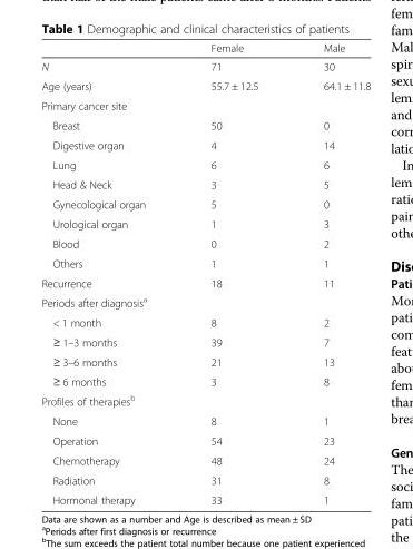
<table><thead><tr><td></td><td>Female</td><td>Male</td></tr></thead><tbody><tr><td>N</td><td>71</td><td>30</td></tr><tr><td>Age (years)</td><td>55.7 ± 12.5</td><td>64.1 ± 11.8</td></tr><tr><td colspan="3">Primary cancer site</td></tr><tr><td>Breast</td><td>50</td><td>0</td></tr><tr><td>Digestive organ</td><td>4</td><td>14</td></tr><tr><td>Lung</td><td>6</td><td>6</td></tr><tr><td>Head &amp; Neck</td><td>3</td><td>5</td></tr><tr><td>Gynecological organ</td><td>5</td><td>0</td></tr><tr><td>Urological organ</td><td>1</td><td>3</td></tr><tr><td>Blood</td><td>0</td><td>2</td></tr><tr><td>Others</td><td>1</td><td>1</td></tr><tr><td>Recurrence</td><td>18</td><td>11</td></tr><tr><td colspan="3">Periods after diagnosis<sup>a</sup></td></tr><tr><td>&lt; 1 month</td><td>8</td><td>2</td></tr><tr><td>≥ 1–3 months</td><td>39</td><td>7</td></tr><tr><td>≥ 3–6 months</td><td>21</td><td>13</td></tr><tr><td>≥ 6 months</td><td>3</td><td>8</td></tr><tr><td colspan="3">Profiles of therapies<sup>b</sup></td></tr><tr><td>None</td><td>8</td><td>1</td></tr><tr><td>Operation</td><td>54</td><td>23</td></tr><tr><td>Chemotherapy</td><td>48</td><td>24</td></tr><tr><td>Radiation</td><td>31</td><td>8</td></tr><tr><td>Hormonal therapy</td><td>33</td><td>1</td></tr></tbody></table>